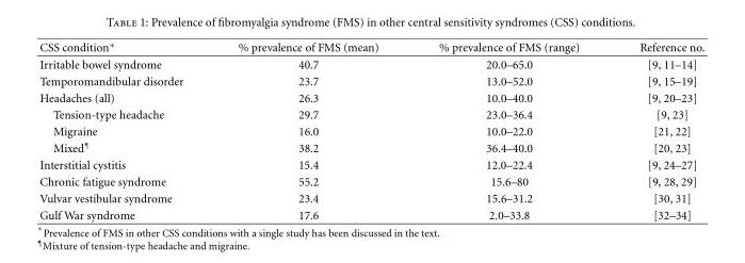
<table><thead><tr><td>CSS condition∗</td><td>% prevalence of FMS (mean)</td><td>% prevalence of FMS (range)</td><td>Reference no.</td></tr></thead><tbody><tr><td>Irritable bowel syndrome</td><td>40.7</td><td>20.0–65.0</td><td>[9, 11–14]</td></tr><tr><td>Temporomandibular disorder</td><td>23.7</td><td>13.0–52.0</td><td>[9, 15–19]</td></tr><tr><td>Headaches (all)</td><td>26.3</td><td>10.0–40.0</td><td>[9, 20–23]</td></tr><tr><td>Tension-type headache</td><td>29.7</td><td>23.0–36.4</td><td>[9, 23]</td></tr><tr><td>Migraine</td><td>16.0</td><td>10.0–22.0</td><td>[21, 22]</td></tr><tr><td>Mixed<sup>¶</sup></td><td>38.2</td><td>36.4–40.0</td><td>[20, 23]</td></tr><tr><td>Interstitial cystitis</td><td>15.4</td><td>12.0–22.4</td><td>[9, 24–27]</td></tr><tr><td>Chronic fatigue syndrome</td><td>55.2</td><td>15.6–80</td><td>[9, 28, 29]</td></tr><tr><td>Vulvar vestibular syndrome</td><td>23.4</td><td>15.6–31.2</td><td>[30, 31]</td></tr><tr><td>Gulf War syndrome</td><td>17.6</td><td>2.0–33.8</td><td>[32–34]</td></tr></tbody></table>